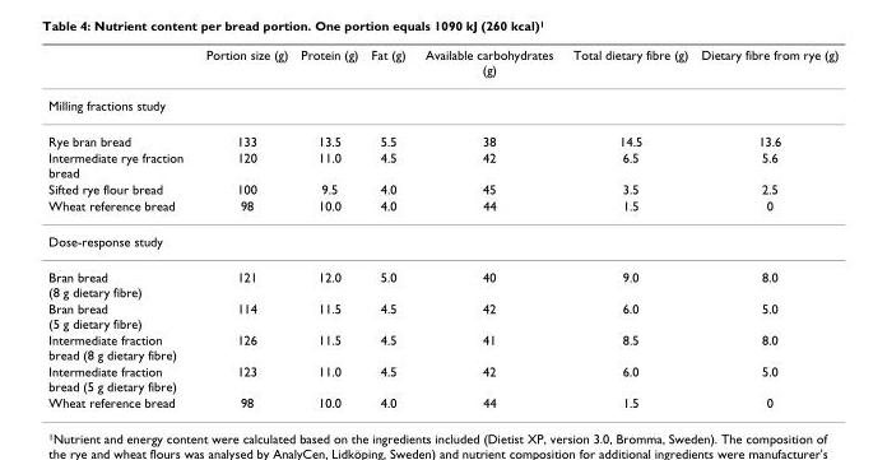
<table><thead><tr><td></td><td>Portion size (g)</td><td>Protein (g)</td><td>Fat (g)</td><td>Available carbohydrates (g)</td><td>Total dietary fibre (g)</td><td>Dietary fibre from rye (g)</td></tr></thead><tbody><tr><td colspan="7">Milling fractions study</td></tr><tr><td>Rye bran bread</td><td>133</td><td>13.5</td><td>5.5</td><td>38</td><td>14.5</td><td>13.6</td></tr><tr><td>Intermediate rye fraction bread</td><td>120</td><td>11.0</td><td>4.5</td><td>42</td><td>6.5</td><td>5.6</td></tr><tr><td>Sifted rye flour bread</td><td>100</td><td>9.5</td><td>4.0</td><td>45</td><td>3.5</td><td>2.5</td></tr><tr><td>Wheat reference bread</td><td>98</td><td>10.0</td><td>4.0</td><td>44</td><td>1.5</td><td>0</td></tr><tr><td colspan="7">Dose-response study</td></tr><tr><td>Bran bread (8 g dietary fibre)</td><td>121</td><td>12.0</td><td>5.0</td><td>40</td><td>9.0</td><td>8.0</td></tr><tr><td>Bran bread (5 g dietary fibre)</td><td>114</td><td>11.5</td><td>4.5</td><td>42</td><td>6.0</td><td>5.0</td></tr><tr><td>Intermediate fraction bread (8 g dietary fibre)</td><td>126</td><td>11.5</td><td>4.5</td><td>41</td><td>8.5</td><td>8.0</td></tr><tr><td>Intermediate fraction bread (5 g dietary fibre)</td><td>123</td><td>11.0</td><td>4.5</td><td>42</td><td>6.0</td><td>5.0</td></tr><tr><td>Wheat reference bread</td><td>98</td><td>10.0</td><td>4.0</td><td>44</td><td>1.5</td><td>0</td></tr></tbody></table>